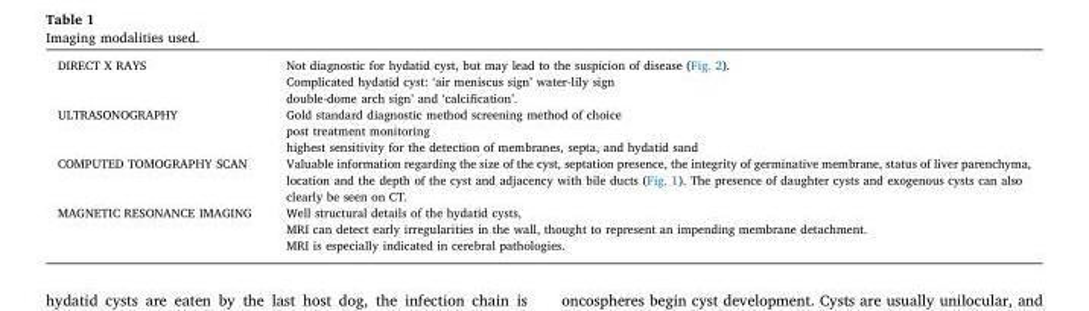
<table><tbody><tr><td>DIRECT X RAYS</td><td>Not diagnostic for hydatid cyst, but may lead to the suspicion of disease (Fig. 2). Complicated hydatid cyst: ‘air meniscus sign’ water-lily sign double-dome arch sign’ and ‘calcification’.</td></tr><tr><td>ULTRASONOGRAPHY</td><td>Gold standard diagnostic method screening method of choice post treatment monitoring highest sensitivity for the detection of membranes, septa, and hydatid sand</td></tr><tr><td>COMPUTED TOMOGRAPHY SCAN</td><td>Valuable information regarding the size of the cyst, septation presence, the integrity of germinative membrane, status of liver parenchyma, location and the depth of the cyst and adjacency with bile ducts (Fig. 1). The presence of daughter cysts and exogenous cysts can also clearly be seen on CT.</td></tr><tr><td>MAGNETIC RESONANCE IMAGING</td><td>Well structural details of the hydatid cysts, MRI can detect early irregularities in the wall, thought to represent an impending membrane detachment. MRI is especially indicated in cerebral pathologies.</td></tr></tbody></table>